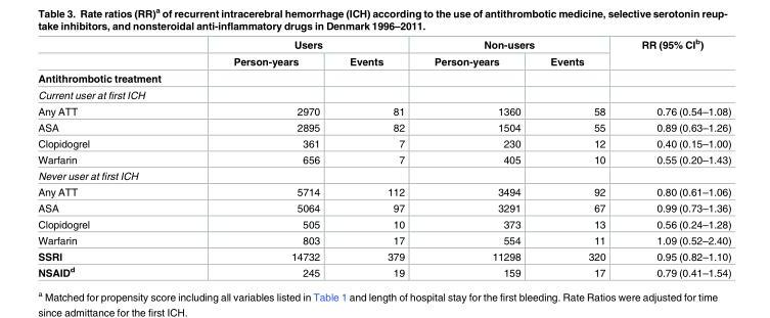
<table><thead><tr><td rowspan="3">Antithrombotic treatment</td><td colspan="2">Users</td><td colspan="2">Non-users</td><td rowspan="3">RR (95% CI<sup>b</sup>)</td></tr><tr><td rowspan="2">Person-years</td><td rowspan="2">Events</td><td rowspan="2">Person-years</td><td rowspan="2">Events</td></tr><tr></tr></thead><tbody><tr><td colspan="6">Current user at first ICH</td></tr><tr><td>Any ATT</td><td>2970</td><td>81</td><td>1360</td><td>58</td><td>0.76 (0.54–1.08)</td></tr><tr><td>ASA</td><td>2895</td><td>82</td><td>1504</td><td>55</td><td>0.89 (0.63–1.26)</td></tr><tr><td>Clopidogrel</td><td>361</td><td>7</td><td>230</td><td>12</td><td>0.40 (0.15–1.00)</td></tr><tr><td>Warfarin</td><td>656</td><td>7</td><td>405</td><td>10</td><td>0.55 (0.20–1.43)</td></tr><tr><td colspan="6">Never user at first ICH</td></tr><tr><td>Any ATT</td><td>5714</td><td>112</td><td>3494</td><td>92</td><td>0.80 (0.61–1.06)</td></tr><tr><td>ASA</td><td>5064</td><td>97</td><td>3291</td><td>67</td><td>0.99 (0.73–1.36)</td></tr><tr><td>Clopidogrel</td><td>505</td><td>10</td><td>373</td><td>13</td><td>0.56 (0.24–1.28)</td></tr><tr><td>Warfarin</td><td>803</td><td>17</td><td>554</td><td>11</td><td>1.09 (0.52–2.40)</td></tr><tr><td>SSRI</td><td>14732</td><td>379</td><td>11298</td><td>320</td><td>0.95 (0.82–1.10)</td></tr><tr><td>NSAID<sup>d</sup></td><td>245</td><td>19</td><td>159</td><td>17</td><td>0.79 (0.41–1.54)</td></tr></tbody></table>